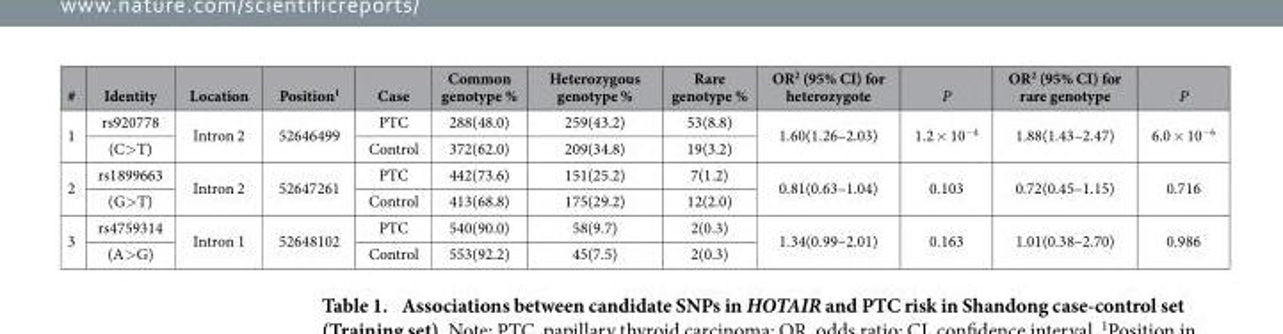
<table><thead><tr><td>#</td><td>Identity</td><td>Location</td><td>Position<sup>1</sup></td><td>Case</td><td>Common genotype %</td><td>Heterozygous genotype %</td><td>Rare genotype %</td><td>OR<sup>2</sup> (95% CI) for heterozygote</td><td>P</td><td>OR<sup>2</sup> (95% CI) for rare genotype</td><td>P</td></tr></thead><tbody><tr><td rowspan="2">1</td><td>rs920778</td><td rowspan="2">Intron 2</td><td rowspan="2">52646499</td><td>PTC</td><td>288(48.0)</td><td>259(43.2)</td><td>53(8.8)</td><td rowspan="2">1.60(1.26–2.03)</td><td rowspan="2">1.2 × 10<sup>−4</sup></td><td rowspan="2">1.88(1.43–2.47)</td><td rowspan="2">6.0 × 10<sup>−6</sup></td></tr><tr><td>(C&gt; T)</td><td>Control</td><td>372(62.0)</td><td>209(34.8)</td><td>19(3.2)</td></tr><tr><td rowspan="2">2</td><td>rs1899663</td><td rowspan="2">Intron 2</td><td rowspan="2">52647261</td><td>PTC</td><td>442(73.6)</td><td>151(25.2)</td><td>7(1.2)</td><td rowspan="2">0.81(0.63–1.04)</td><td rowspan="2">0.103</td><td rowspan="2">0.72(0.45–1.15)</td><td rowspan="2">0.716</td></tr><tr><td>(G&gt; T)</td><td>Control</td><td>413(68.8)</td><td>175(29.2)</td><td>12(2.0)</td></tr><tr><td rowspan="2">3</td><td>rs4759314</td><td rowspan="2">Intron 1</td><td rowspan="2">52648102</td><td>PTC</td><td>540(90.0)</td><td>58(9.7)</td><td>2(0.3)</td><td rowspan="2">1.34(0.99–2.01)</td><td rowspan="2">0.163</td><td rowspan="2">1.01(0.38–2.70)</td><td rowspan="2">0.986</td></tr><tr><td>(A&gt; G)</td><td>Control</td><td>553(92.2)</td><td>45(7.5)</td><td>2(0.3)</td></tr></tbody></table>